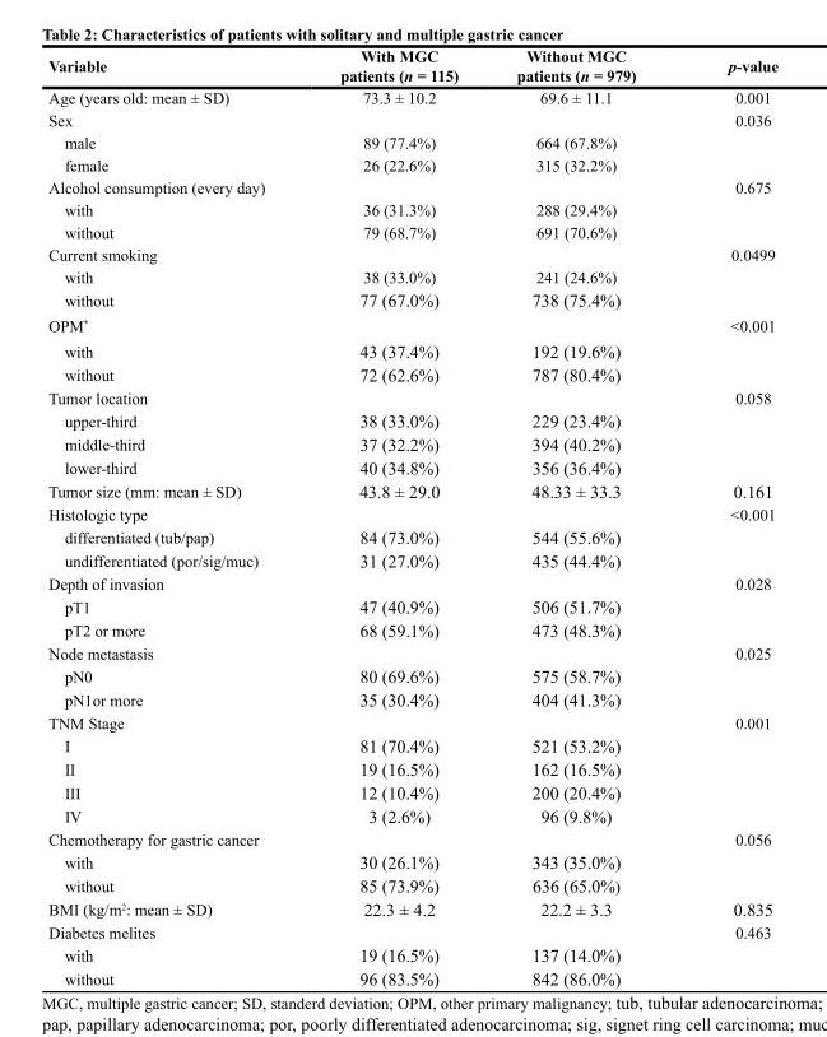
<table><thead><tr><td>Variable</td><td>With MGC patients (n = 115)</td><td>Without MGC patients (n = 979)</td><td>p-value</td></tr></thead><tbody><tr><td>Age (years old: mean ± SD)</td><td>73.3 ± 10.2</td><td>69.6 ± 11.1</td><td>0.001</td></tr><tr><td>Sex</td><td></td><td></td><td>0.036</td></tr><tr><td>male</td><td>89 (77.4%)</td><td>664 (67.8%)</td><td></td></tr><tr><td>female</td><td>26 (22.6%)</td><td>315 (32.2%)</td><td></td></tr><tr><td>Alcohol consumption (every day)</td><td></td><td></td><td>0.675</td></tr><tr><td>with</td><td>36 (31.3%)</td><td>288 (29.4%)</td><td></td></tr><tr><td>without</td><td>79 (68.7%)</td><td>691 (70.6%)</td><td></td></tr><tr><td>Current smoking</td><td></td><td></td><td>0.0499</td></tr><tr><td>with</td><td>38 (33.0%)</td><td>241 (24.6%)</td><td></td></tr><tr><td>without</td><td>77 (67.0%)</td><td>738 (75.4%)</td><td></td></tr><tr><td>OPM*</td><td></td><td></td><td>&lt;0.001</td></tr><tr><td>with</td><td>43 (37.4%)</td><td>192 (19.6%)</td><td></td></tr><tr><td>without</td><td>72 (62.6%)</td><td>787 (80.4%)</td><td></td></tr><tr><td>Tumor location</td><td></td><td></td><td>0.058</td></tr><tr><td>upper-third</td><td>38 (33.0%)</td><td>229 (23.4%)</td><td></td></tr><tr><td>middle-third</td><td>37 (32.2%)</td><td>394 (40.2%)</td><td></td></tr><tr><td>lower-third</td><td>40 (34.8%)</td><td>356 (36.4%)</td><td></td></tr><tr><td>Tumor size (mm: mean ± SD)</td><td>43.8 ± 29.0</td><td>48.33 ± 33.3</td><td>0.161</td></tr><tr><td>Histologic type</td><td></td><td></td><td>&lt;0.001</td></tr><tr><td>differentiated (tub/pap)</td><td>84 (73.0%)</td><td>544 (55.6%)</td><td></td></tr><tr><td>undifferentiated (por/sig/muc)</td><td>31 (27.0%)</td><td>435 (44.4%)</td><td></td></tr><tr><td>Depth of invasion</td><td></td><td></td><td>0.028</td></tr><tr><td>pT1</td><td>47 (40.9%)</td><td>506 (51.7%)</td><td></td></tr><tr><td>pT2 or more</td><td>68 (59.1%)</td><td>473 (48.3%)</td><td></td></tr><tr><td>Node metastasis</td><td></td><td></td><td>0.025</td></tr><tr><td>pN0</td><td>80 (69.6%)</td><td>575 (58.7%)</td><td></td></tr><tr><td>pN1or more</td><td>35 (30.4%)</td><td>404 (41.3%)</td><td></td></tr><tr><td>TNM Stage</td><td></td><td></td><td>0.001</td></tr><tr><td>I</td><td>81 (70.4%)</td><td>521 (53.2%)</td><td></td></tr><tr><td>II</td><td>19 (16.5%)</td><td>162 (16.5%)</td><td></td></tr><tr><td>III</td><td>12 (10.4%)</td><td>200 (20.4%)</td><td></td></tr><tr><td>IV</td><td>3 (2.6%)</td><td>96 (9.8%)</td><td></td></tr><tr><td>Chemotherapy for gastric cancer</td><td></td><td></td><td>0.056</td></tr><tr><td>with</td><td>30 (26.1%)</td><td>343 (35.0%)</td><td></td></tr><tr><td>without</td><td>85 (73.9%)</td><td>636 (65.0%)</td><td></td></tr><tr><td>BMI (kg/m<sup>2</sup>: mean ± SD)</td><td>22.3 ± 4.2</td><td>22.2 ± 3.3</td><td>0.835</td></tr><tr><td>Diabetes melites</td><td></td><td></td><td>0.463</td></tr><tr><td>with</td><td>19 (16.5%)</td><td>137 (14.0%)</td><td></td></tr><tr><td>without</td><td>96 (83.5%)</td><td>842 (86.0%)</td><td></td></tr></tbody></table>